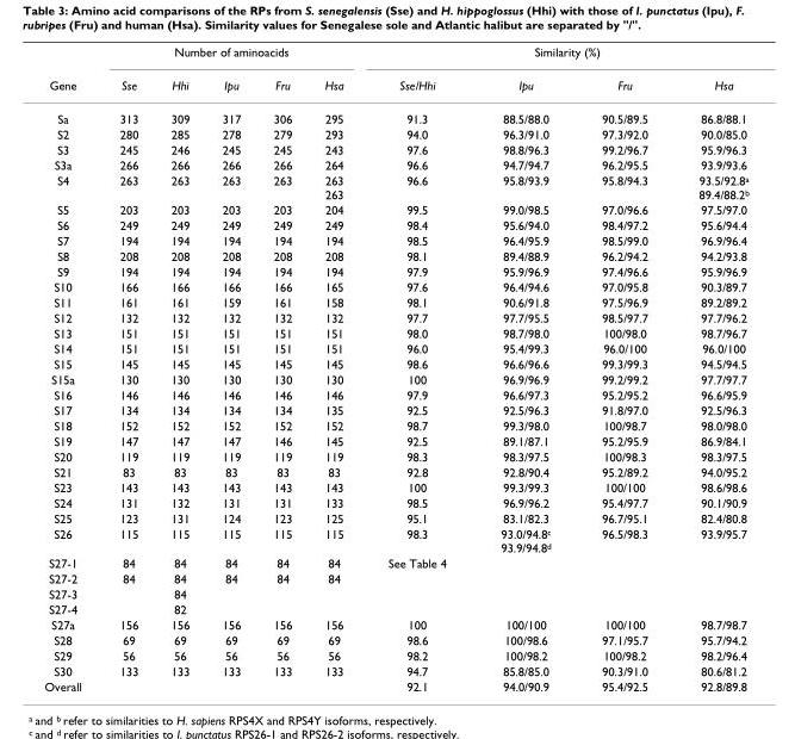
<table><thead><tr><td rowspan="2">Gene</td><td colspan="5">Number of aminoacids</td><td colspan="4">Similarity (%)</td></tr><tr><td>Sse</td><td>Hhi</td><td>Ipu</td><td>Fru</td><td>Hsa</td><td>Sse/Hhi</td><td>Ipu</td><td>Fru</td><td>Hsa</td></tr></thead><tbody><tr><td>Sa</td><td>313</td><td>309</td><td>317</td><td>306</td><td>295</td><td>91.3</td><td>88.5/88.0</td><td>90.5/89.5</td><td>86.8/88.1</td></tr><tr><td>S2</td><td>280</td><td>285</td><td>278</td><td>279</td><td>293</td><td>94.0</td><td>96.3/91.0</td><td>97.3/92.0</td><td>90.0/85.0</td></tr><tr><td>S3</td><td>245</td><td>246</td><td>245</td><td>245</td><td>243</td><td>97.6</td><td>98.8/96.3</td><td>99.2/96.7</td><td>95.9/96.3</td></tr><tr><td>S3a</td><td>266</td><td>266</td><td>266</td><td>266</td><td>264</td><td>96.6</td><td>94.7/94.7</td><td>96.2/95.5</td><td>93.9/93.6</td></tr><tr><td>S4</td><td>263</td><td>263</td><td>263</td><td>263</td><td>263 263</td><td>96.6</td><td>95.8/93.9</td><td>95.8/94.3</td><td>93.5/92.8<sup>a</sup> 89.4/88.2<sup>b</sup></td></tr><tr><td>S5</td><td>203</td><td>203</td><td>203</td><td>203</td><td>204</td><td>99.5</td><td>99.0/98.5</td><td>97.0/96.6</td><td>97.5/97.0</td></tr><tr><td>S6</td><td>249</td><td>249</td><td>249</td><td>249</td><td>249</td><td>98.4</td><td>95.6/94.0</td><td>98.4/97.2</td><td>95.6/94.4</td></tr><tr><td>S7</td><td>194</td><td>194</td><td>194</td><td>194</td><td>194</td><td>98.5</td><td>96.4/95.9</td><td>98.5/99.0</td><td>96.9/96.4</td></tr><tr><td>S8</td><td>208</td><td>208</td><td>208</td><td>208</td><td>208</td><td>98.1</td><td>89.4/88.9</td><td>96.2/94.2</td><td>94.2/93.8</td></tr><tr><td>S9</td><td>194</td><td>194</td><td>194</td><td>194</td><td>194</td><td>97.9</td><td>95.9/96.9</td><td>97.4/96.6</td><td>95.9/96.9</td></tr><tr><td>S10</td><td>166</td><td>166</td><td>166</td><td>166</td><td>165</td><td>97.6</td><td>96.4/94.6</td><td>97.0/95.8</td><td>90.3/89.7</td></tr><tr><td>S11</td><td>161</td><td>161</td><td>159</td><td>161</td><td>158</td><td>98.1</td><td>90.6/91.8</td><td>97.5/96.9</td><td>89.2/89.2</td></tr><tr><td>S12</td><td>132</td><td>132</td><td>132</td><td>132</td><td>132</td><td>97.7</td><td>97.7/95.5</td><td>98.5/97.7</td><td>97.7/96.2</td></tr><tr><td>S13</td><td>151</td><td>151</td><td>151</td><td>151</td><td>151</td><td>98.0</td><td>98.7/98.0</td><td>100/98.0</td><td>98.7/96.7</td></tr><tr><td>S14</td><td>151</td><td>151</td><td>151</td><td>151</td><td>151</td><td>96.0</td><td>95.4/99.3</td><td>96.0/100</td><td>96.0/100</td></tr><tr><td>S15</td><td>145</td><td>145</td><td>145</td><td>145</td><td>145</td><td>98.6</td><td>96.6/96.6</td><td>99.3/99.3</td><td>94.5/94.5</td></tr><tr><td>S15a</td><td>130</td><td>130</td><td>130</td><td>130</td><td>130</td><td>100</td><td>96.9/96.9</td><td>99.2/99.2</td><td>97.7/97.7</td></tr><tr><td>S16</td><td>146</td><td>146</td><td>146</td><td>146</td><td>146</td><td>97.9</td><td>96.6/97.3</td><td>95.2/95.2</td><td>96.6/95.9</td></tr><tr><td>S17</td><td>134</td><td>134</td><td>134</td><td>134</td><td>135</td><td>92.5</td><td>92.5/96.3</td><td>91.8/97.0</td><td>92.5/96.3</td></tr><tr><td>S18</td><td>152</td><td>152</td><td>152</td><td>152</td><td>152</td><td>98.7</td><td>99.3/98.0</td><td>100/98.7</td><td>98.0/98.0</td></tr><tr><td>S19</td><td>147</td><td>147</td><td>147</td><td>146</td><td>145</td><td>92.5</td><td>89.1/87.1</td><td>95.2/95.9</td><td>86.9/84.1</td></tr><tr><td>S20</td><td>119</td><td>119</td><td>119</td><td>119</td><td>119</td><td>98.3</td><td>98.3/97.5</td><td>100/98.3</td><td>98.3/97.5</td></tr><tr><td>S21</td><td>83</td><td>83</td><td>83</td><td>83</td><td>83</td><td>92.8</td><td>92.8/90.4</td><td>95.2/89.2</td><td>94.0/95.2</td></tr><tr><td>S23</td><td>143</td><td>143</td><td>143</td><td>143</td><td>143</td><td>100</td><td>99.3/99.3</td><td>100/100</td><td>98.6/98.6</td></tr><tr><td>S24</td><td>131</td><td>132</td><td>131</td><td>131</td><td>133</td><td>98.5</td><td>96.9/96.2</td><td>95.4/97.7</td><td>90.1/90.9</td></tr><tr><td>S25</td><td>123</td><td>131</td><td>124</td><td>123</td><td>125</td><td>95.1</td><td>83.1/82.3</td><td>96.7/95.1</td><td>82.4/80.8</td></tr><tr><td>S26</td><td>115</td><td>115</td><td>115</td><td>115</td><td>115</td><td>98.3</td><td>93.0/94.8<sup>c</sup> 93.9/94.8<sup>d</sup></td><td>96.5/98.3</td><td>93.9/95.7</td></tr><tr><td>S27-1</td><td>84</td><td>84</td><td>84</td><td>84</td><td>84</td><td>See Table 4</td><td></td><td></td><td></td></tr><tr><td>S27-2</td><td>84</td><td>84</td><td>84</td><td>84</td><td>84</td><td></td><td></td><td></td><td></td></tr><tr><td>S27-3</td><td></td><td>84</td><td></td><td></td><td></td><td></td><td></td><td></td><td></td></tr><tr><td>S27-4</td><td></td><td>82</td><td></td><td></td><td></td><td></td><td></td><td></td><td></td></tr><tr><td>S27a</td><td>156</td><td>156</td><td>156</td><td>156</td><td>156</td><td>100</td><td>100/100</td><td>100/100</td><td>98.7/98.7</td></tr><tr><td>S28</td><td>69</td><td>69</td><td>69</td><td>69</td><td>69</td><td>98.6</td><td>100/98.6</td><td>97.1/95.7</td><td>95.7/94.2</td></tr><tr><td>S29</td><td>56</td><td>56</td><td>56</td><td>56</td><td>56</td><td>98.2</td><td>100/98.2</td><td>100/98.2</td><td>98.2/96.4</td></tr><tr><td>S30</td><td>133</td><td>133</td><td>133</td><td>133</td><td>133</td><td>94.7</td><td>85.8/85.0</td><td>90.3/91.0</td><td>80.6/81.2</td></tr><tr><td>Overall</td><td></td><td></td><td></td><td></td><td></td><td>92.1</td><td>94.0/90.9</td><td>95.4/92.5</td><td>92.8/89.8</td></tr></tbody></table>